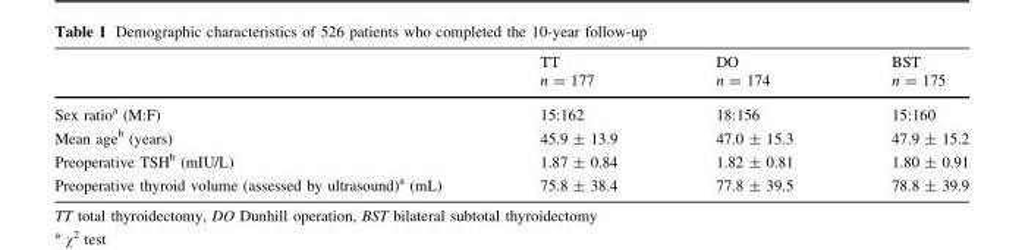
<table><thead><tr><td></td><td>TT n = 177</td><td>DO n = 174</td><td>BST n = 175</td></tr></thead><tbody><tr><td>Sex ratio<sup>a</sup> (M:F)</td><td>15:162</td><td>18:156</td><td>15:160</td></tr><tr><td>Mean age<sup>b</sup> (years)</td><td>45.9 ± 13.9</td><td>47.0 ± 15.3</td><td>47.9 ± 15.2</td></tr><tr><td>Preoperative TSH<sup>b</sup> (mIU/L)</td><td>1.87 ± 0.84</td><td>1.82 ± 0.81</td><td>1.80 ± 0.91</td></tr><tr><td>Preoperative thyroid volume (assessed by ultrasound)<sup>a</sup> (mL)</td><td>75.8 ± 38.4</td><td>77.8 ± 39.5</td><td>78.8 ± 39.9</td></tr></tbody></table>